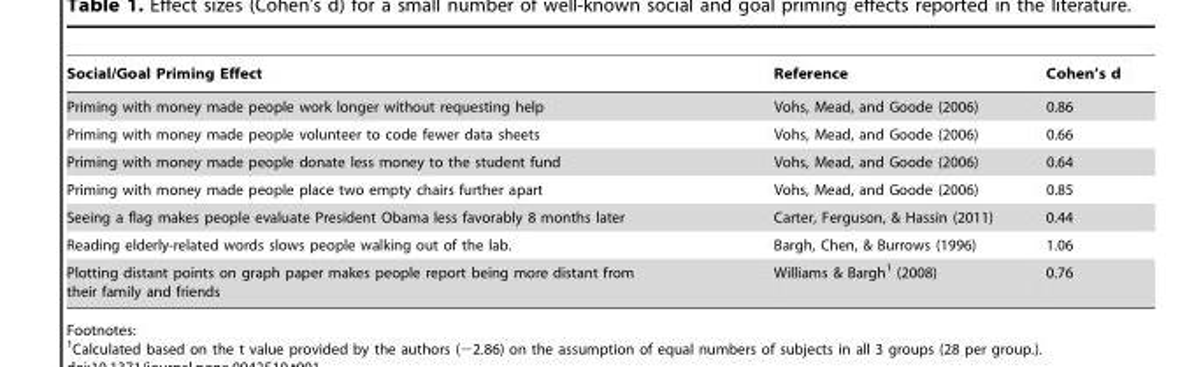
<table><thead><tr><td>Social/Goal Priming Effect</td><td>Reference</td><td>Cohen’s d</td></tr></thead><tbody><tr><td>Priming with money made people work longer without requesting help</td><td>Vohs, Mead, and Goode (2006)</td><td>0.86</td></tr><tr><td>Priming with money made people volunteer to code fewer data sheets</td><td>Vohs, Mead, and Goode (2006)</td><td>0.66</td></tr><tr><td>Priming with money made people donate less money to the student fund</td><td>Vohs, Mead, and Goode (2006)</td><td>0.64</td></tr><tr><td>Priming with money made people place two empty chairs further apart</td><td>Vohs, Mead, and Goode (2006)</td><td>0.85</td></tr><tr><td>Seeing a flag makes people evaluate President Obama less favorably 8 months later</td><td>Carter, Ferguson, &amp; Hassin (2011)</td><td>0.44</td></tr><tr><td>Reading elderly-related words slows people walking out of the lab.</td><td>Bargh, Chen, &amp; Burrows (1996)</td><td>1.06</td></tr><tr><td>Plotting distant points on graph paper makes people report being more distant from their family and friends</td><td>Williams &amp; Bargh<sup>1</sup> (2008)</td><td>0.76</td></tr></tbody></table>